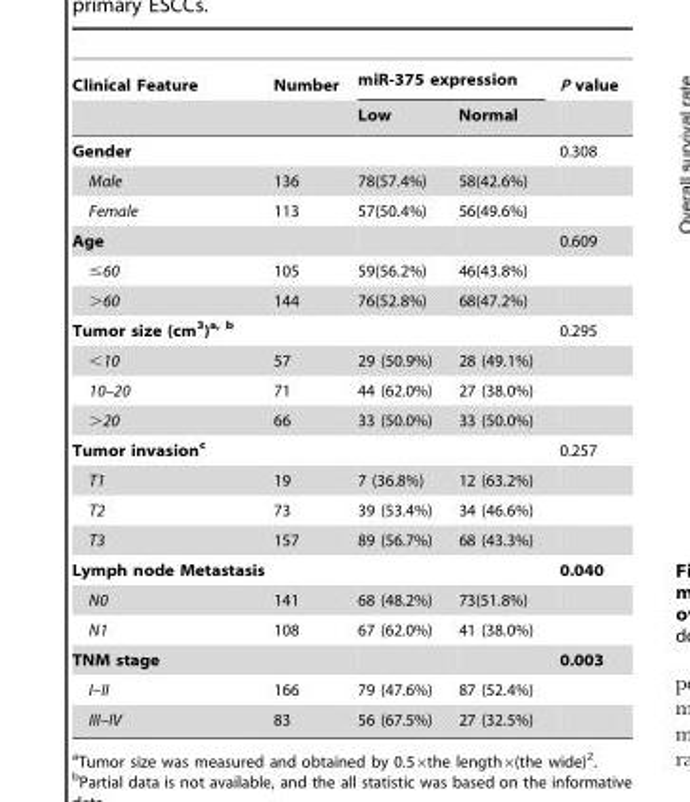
<table><thead><tr><td rowspan="2">Clinical Feature</td><td rowspan="2">Number</td><td colspan="2">miR-375 expression</td><td rowspan="2">P value</td></tr><tr><td>Low</td><td>Normal</td></tr></thead><tbody><tr><td>Gender</td><td></td><td></td><td></td><td>0.308</td></tr><tr><td>Male</td><td>136</td><td>78(57.4%)</td><td>58(42.6%)</td><td></td></tr><tr><td>Female</td><td>113</td><td>57(50.4%)</td><td>56(49.6%)</td><td></td></tr><tr><td>Age</td><td></td><td></td><td></td><td>0.609</td></tr><tr><td>≤60</td><td>105</td><td>59(56.2%)</td><td>46(43.8%)</td><td></td></tr><tr><td>&gt;60</td><td>144</td><td>76(52.8%)</td><td>68(47.2%)</td><td></td></tr><tr><td>Tumor size (cm<sup>3</sup>)a, b</td><td></td><td></td><td></td><td>0.295</td></tr><tr><td>&lt;10</td><td>57</td><td>29 (50.9%)</td><td>28 (49.1%)</td><td></td></tr><tr><td>10–20</td><td>71</td><td>44 (62.0%)</td><td>27 (38.0%)</td><td></td></tr><tr><td>&gt;20</td><td>66</td><td>33 (50.0%)</td><td>33 (50.0%)</td><td></td></tr><tr><td>Tumor invasionc</td><td></td><td></td><td></td><td>0.257</td></tr><tr><td>T1</td><td>19</td><td>7 (36.8%)</td><td>12 (63.2%)</td><td></td></tr><tr><td>T2</td><td>73</td><td>39 (53.4%)</td><td>34 (46.6%)</td><td></td></tr><tr><td>T3</td><td>157</td><td>89 (56.7%)</td><td>68 (43.3%)</td><td></td></tr><tr><td>Lymph node Metastasis</td><td></td><td></td><td></td><td>0.040</td></tr><tr><td>N0</td><td>141</td><td>68 (48.2%)</td><td>73(51.8%)</td><td></td></tr><tr><td>N1</td><td>108</td><td>67 (62.0%)</td><td>41 (38.0%)</td><td></td></tr><tr><td>TNM stage</td><td></td><td></td><td></td><td>0.003</td></tr><tr><td>I–II</td><td>166</td><td>79 (47.6%)</td><td>87 (52.4%)</td><td></td></tr><tr><td>III–IV</td><td>83</td><td>56 (67.5%)</td><td>27 (32.5%)</td><td></td></tr></tbody></table>